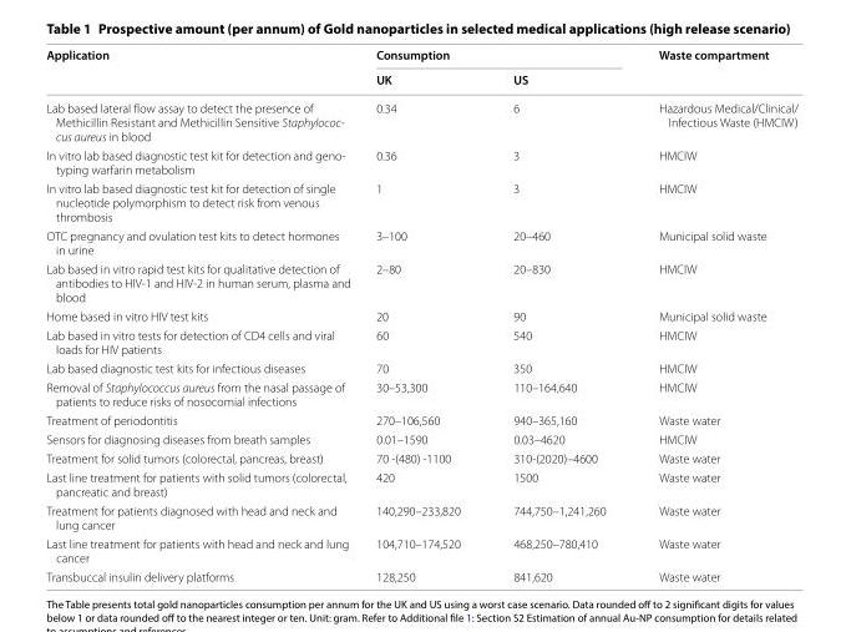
<table><thead><tr><td rowspan="2">Application</td><td colspan="2">Consumption</td><td rowspan="2">Waste compartment</td></tr><tr><td>UK</td><td>US</td></tr></thead><tbody><tr><td>Lab based lateral flow assay to detect the presence of Methicillin Resistant and Methicillin Sensitive Staphylococ- cus aureus in blood</td><td>0.34</td><td>6</td><td>Hazardous Medical/Clinical/ Infectious Waste (HMCIW)</td></tr><tr><td>In vitro lab based diagnostic test kit for detection and geno- typing warfarin metabolism</td><td>0.36</td><td>3</td><td>HMCIW</td></tr><tr><td>In vitro lab based diagnostic test kit for detection of single nucleotide polymorphism to detect risk from venous thrombosis</td><td>1</td><td>3</td><td>HMCIW</td></tr><tr><td>OTC pregnancy and ovulation test kits to detect hormones in urine</td><td>3–100</td><td>20–460</td><td>Municipal solid waste</td></tr><tr><td>Lab based in vitro rapid test kits for qualitative detection of antibodies to HIV-1 and HIV-2 in human serum, plasma and blood</td><td>2–80</td><td>20–830</td><td>HMCIW</td></tr><tr><td>Home based in vitro HIV test kits</td><td>20</td><td>90</td><td>Municipal solid waste</td></tr><tr><td>Lab based in vitro tests for detection of CD4 cells and viral loads for HIV patients</td><td>60</td><td>540</td><td>HMCIW</td></tr><tr><td>Lab based diagnostic test kits for infectious diseases</td><td>70</td><td>350</td><td>HMCIW</td></tr><tr><td>Removal of Staphylococcus aureus from the nasal passage of patients to reduce risks of nosocomial infections</td><td>30–53,300</td><td>110–164,640</td><td>HMCIW</td></tr><tr><td>Treatment of periodontitis</td><td>270–106,560</td><td>940–365,160</td><td>Waste water</td></tr><tr><td>Sensors for diagnosing diseases from breath samples</td><td>0.01–1590</td><td>0.03–4620</td><td>HMCIW</td></tr><tr><td>Treatment for solid tumors (colorectal, pancreas, breast)</td><td>70 -(480) -1100</td><td>310-(2020)–4600</td><td>Waste water</td></tr><tr><td>Last line treatment for patients with solid tumors (colorectal, pancreatic and breast)</td><td>420</td><td>1500</td><td>Waste water</td></tr><tr><td>Treatment for patients diagnosed with head and neck and lung cancer</td><td>140,290–233,820</td><td>744,750–1,241,260</td><td>Waste water</td></tr><tr><td>Last line treatment for patients with head and neck and lung cancer</td><td>104,710–174,520</td><td>468,250–780,410</td><td>Waste water</td></tr><tr><td>Transbuccal insulin delivery platforms</td><td>128,250</td><td>841,620</td><td>Waste water</td></tr></tbody></table>